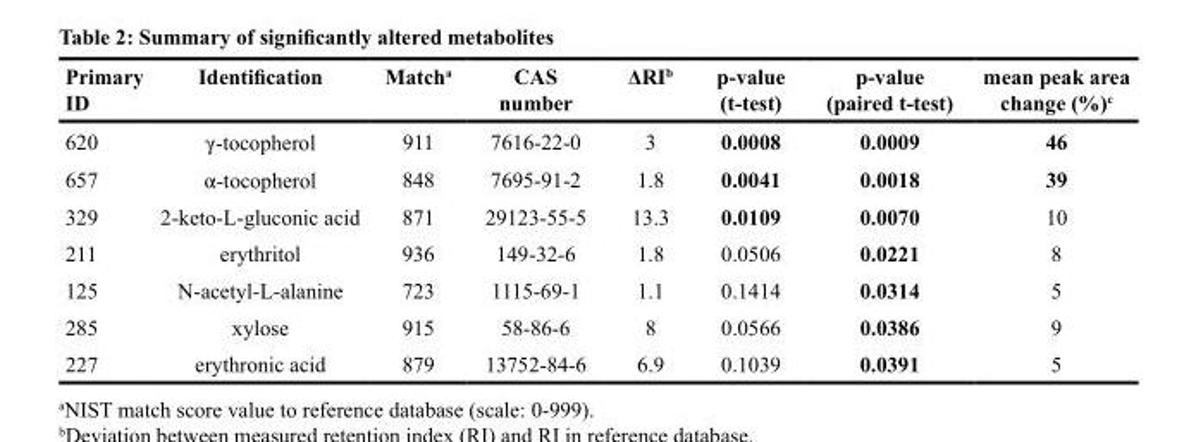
<table><thead><tr><td>Primary ID</td><td>Identification</td><td>Match<sup>a</sup></td><td>CAS number</td><td>ΔRI<sup>b</sup></td><td>p-value (t-test)</td><td>p-value (paired t-test)</td><td>mean peak area change (%)<sup>c</sup></td></tr></thead><tbody><tr><td>620</td><td>γ-tocopherol</td><td>911</td><td>7616-22-0</td><td>3</td><td>0.0008</td><td>0.0009</td><td>46</td></tr><tr><td>657</td><td>α-tocopherol</td><td>848</td><td>7695-91-2</td><td>1.8</td><td>0.0041</td><td>0.0018</td><td>39</td></tr><tr><td>329</td><td>2-keto-L-gluconic acid</td><td>871</td><td>29123-55-5</td><td>13.3</td><td>0.0109</td><td>0.0070</td><td>10</td></tr><tr><td>211</td><td>erythritol</td><td>936</td><td>149-32-6</td><td>1.8</td><td>0.0506</td><td>0.0221</td><td>8</td></tr><tr><td>125</td><td>N-acetyl-L-alanine</td><td>723</td><td>1115-69-1</td><td>1.1</td><td>0.1414</td><td>0.0314</td><td>5</td></tr><tr><td>285</td><td>xylose</td><td>915</td><td>58-86-6</td><td>8</td><td>0.0566</td><td>0.0386</td><td>9</td></tr><tr><td>227</td><td>erythronic acid</td><td>879</td><td>13752-84-6</td><td>6.9</td><td>0.1039</td><td>0.0391</td><td>5</td></tr></tbody></table>